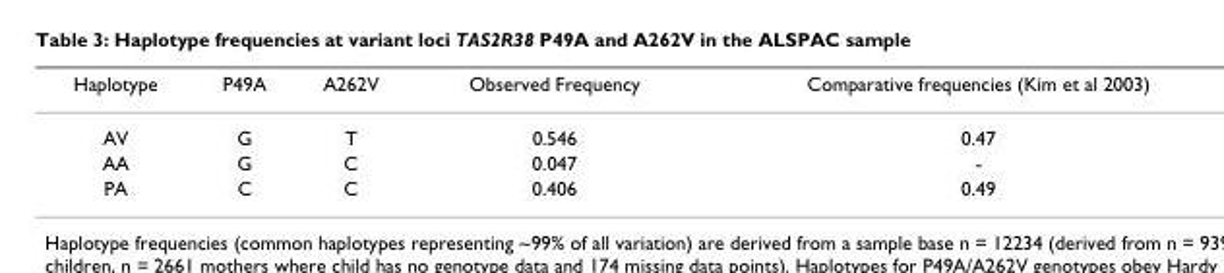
<table><thead><tr><td>Haplotype</td><td>P49A</td><td>A262V</td><td>Observed Frequency</td><td>Comparative frequencies (Kim et al 2003)</td></tr></thead><tbody><tr><td>AV</td><td>G</td><td>T</td><td>0.546</td><td>0.47</td></tr><tr><td>AA</td><td>G</td><td>C</td><td>0.047</td><td>-</td></tr><tr><td>PA</td><td>C</td><td>C</td><td>0.406</td><td>0.49</td></tr></tbody></table>